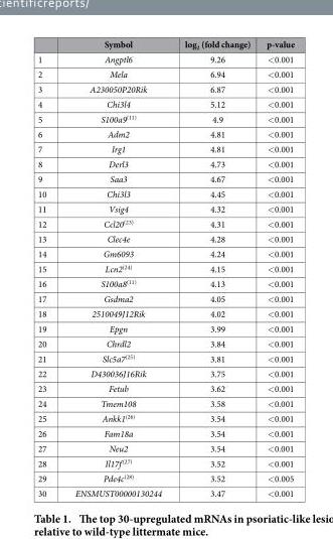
<table><thead><tr><td></td><td>Symbol</td><td>log<sub>2</sub> (fold change)</td><td>p-value</td></tr></thead><tbody><tr><td>1</td><td>Angptl6</td><td>9.26</td><td>&lt; 0.001</td></tr><tr><td>2</td><td>Mela</td><td>6.94</td><td>&lt; 0.001</td></tr><tr><td>3</td><td>A230050P20Rik</td><td>6.87</td><td>&lt; 0.001</td></tr><tr><td>4</td><td>Chi3l4</td><td>5.12</td><td>&lt; 0.001</td></tr><tr><td>5</td><td>S100a9<sup>(11)</sup></td><td>4.9</td><td>&lt; 0.001</td></tr><tr><td>6</td><td>Adm2</td><td>4.81</td><td>&lt; 0.001</td></tr><tr><td>7</td><td>Irg1</td><td>4.81</td><td>&lt; 0.001</td></tr><tr><td>8</td><td>Derl3</td><td>4.73</td><td>&lt; 0.001</td></tr><tr><td>9</td><td>Saa3</td><td>4.67</td><td>&lt; 0.001</td></tr><tr><td>10</td><td>Chi3l3</td><td>4.45</td><td>&lt; 0.001</td></tr><tr><td>11</td><td>Vsig4</td><td>4.32</td><td>&lt; 0.001</td></tr><tr><td>12</td><td>Ccl20<sup>(23)</sup></td><td>4.31</td><td>&lt; 0.001</td></tr><tr><td>13</td><td>Clec4e</td><td>4.28</td><td>&lt; 0.001</td></tr><tr><td>14</td><td>Gm6093</td><td>4.24</td><td>&lt; 0.001</td></tr><tr><td>15</td><td>Lcn2<sup>(24)</sup></td><td>4.15</td><td>&lt; 0.001</td></tr><tr><td>16</td><td>S100a8<sup>(11)</sup></td><td>4.13</td><td>&lt; 0.001</td></tr><tr><td>17</td><td>Gsdma2</td><td>4.05</td><td>&lt; 0.001</td></tr><tr><td>18</td><td>2510049J12Rik</td><td>4.02</td><td>&lt; 0.001</td></tr><tr><td>19</td><td>Epgn</td><td>3.99</td><td>&lt; 0.001</td></tr><tr><td>20</td><td>Chrdl2</td><td>3.84</td><td>&lt; 0.001</td></tr><tr><td>21</td><td>Slc5a7<sup>(25)</sup></td><td>3.81</td><td>&lt; 0.001</td></tr><tr><td>22</td><td>D430036J16Rik</td><td>3.75</td><td>&lt; 0.001</td></tr><tr><td>23</td><td>Fetub</td><td>3.62</td><td>&lt; 0.001</td></tr><tr><td>24</td><td>Tmem108</td><td>3.58</td><td>&lt; 0.001</td></tr><tr><td>25</td><td>Ankk1<sup>(26)</sup></td><td>3.54</td><td>&lt; 0.001</td></tr><tr><td>26</td><td>Fam18a</td><td>3.54</td><td>&lt; 0.001</td></tr><tr><td>27</td><td>Neu2</td><td>3.54</td><td>&lt; 0.001</td></tr><tr><td>28</td><td>Il17f <sup>(27)</sup></td><td>3.52</td><td>&lt; 0.001</td></tr><tr><td>29</td><td>Pde4c<sup>(28)</sup></td><td>3.52</td><td>&lt; 0.005</td></tr><tr><td>30</td><td>ENSMUST00000130244</td><td>3.47</td><td>&lt; 0.001</td></tr></tbody></table>